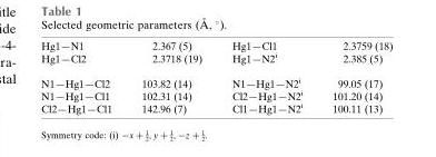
<table><tbody><tr><td>Hg1—N1</td><td>2.367 (5)</td><td>Hg1—Cl1</td><td>2.3759 (18)</td></tr><tr><td>Hg1—Cl2</td><td>2.3718 (19)</td><td>Hg1—N2<sup>i</sup></td><td>2.385 (5)</td></tr><tr><td>N1—Hg1—Cl2</td><td>103.82 (14)</td><td>N1—Hg1—N2<sup>i</sup></td><td>99.05 (17)</td></tr><tr><td>N1—Hg1—Cl1</td><td>102.31 (14)</td><td>Cl2—Hg1—N2<sup>i</sup></td><td>101.20 (14)</td></tr><tr><td>Cl2—Hg1—Cl1</td><td>142.96 (7)</td><td>Cl1—Hg1—N2<sup>i</sup></td><td>100.11 (13)</td></tr></tbody></table>